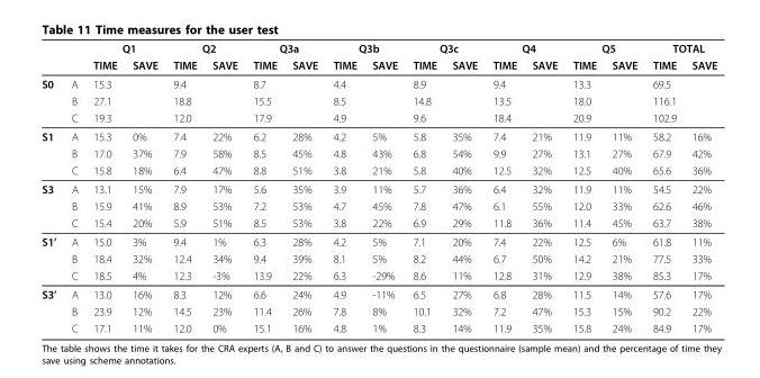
<table><thead><tr><td rowspan="2"></td><td rowspan="2"></td><td colspan="2">Q1</td><td colspan="2">Q2</td><td colspan="2">Q3a</td><td colspan="2">Q3b</td><td colspan="2">Q3c</td><td colspan="2">Q4</td><td colspan="2">Q5</td><td colspan="2">TOTAL</td></tr><tr><td>TIME</td><td>SAVE</td><td>TIME</td><td>SAVE</td><td>TIME</td><td>SAVE</td><td>TIME</td><td>SAVE</td><td>TIME</td><td>SAVE</td><td>TIME</td><td>SAVE</td><td>TIME</td><td>SAVE</td><td>TIME</td><td>SAVE</td></tr></thead><tbody><tr><td rowspan="3">S0</td><td>A</td><td>15.3</td><td></td><td>9.4</td><td></td><td>8.7</td><td></td><td>4.4</td><td></td><td>8.9</td><td></td><td>9.4</td><td></td><td>13.3</td><td></td><td>69.5</td><td></td></tr><tr><td>B</td><td>27.1</td><td></td><td>18.8</td><td></td><td>15.5</td><td></td><td>8.5</td><td></td><td>14.8</td><td></td><td>13.5</td><td></td><td>18.0</td><td></td><td>116.1</td><td></td></tr><tr><td>C</td><td>19.3</td><td></td><td>12.0</td><td></td><td>17.9</td><td></td><td>4.9</td><td></td><td>9.6</td><td></td><td>18.4</td><td></td><td>20.9</td><td></td><td>102.9</td><td></td></tr><tr><td rowspan="3">S1</td><td>A</td><td>15.3</td><td>0%</td><td>7.4</td><td>22%</td><td>6.2</td><td>28%</td><td>4.2</td><td>5%</td><td>5.8</td><td>35%</td><td>7.4</td><td>21%</td><td>11.9</td><td>11%</td><td>58.2</td><td>16%</td></tr><tr><td>B</td><td>17.0</td><td>37%</td><td>7.9</td><td>58%</td><td>8.5</td><td>45%</td><td>4.8</td><td>43%</td><td>6.8</td><td>54%</td><td>9.9</td><td>27%</td><td>13.1</td><td>27%</td><td>67.9</td><td>42%</td></tr><tr><td>C</td><td>15.8</td><td>18%</td><td>6.4</td><td>47%</td><td>8.8</td><td>51%</td><td>3.8</td><td>21%</td><td>5.8</td><td>40%</td><td>12.5</td><td>32%</td><td>12.5</td><td>40%</td><td>65.6</td><td>36%</td></tr><tr><td rowspan="3">S3</td><td>A</td><td>13.1</td><td>15%</td><td>7.9</td><td>17%</td><td>5.6</td><td>35%</td><td>3.9</td><td>11%</td><td>5.7</td><td>36%</td><td>6.4</td><td>32%</td><td>11.9</td><td>11%</td><td>54.5</td><td>22%</td></tr><tr><td>B</td><td>15.9</td><td>41%</td><td>8.9</td><td>53%</td><td>7.2</td><td>53%</td><td>4.7</td><td>45%</td><td>7.8</td><td>47%</td><td>6.1</td><td>55%</td><td>12.0</td><td>33%</td><td>62.6</td><td>46%</td></tr><tr><td>C</td><td>15.4</td><td>20%</td><td>5.9</td><td>51%</td><td>8.5</td><td>53%</td><td>3.8</td><td>22%</td><td>6.9</td><td>29%</td><td>11.8</td><td>36%</td><td>11.4</td><td>45%</td><td>63.7</td><td>38%</td></tr><tr><td rowspan="3">S1’</td><td>A</td><td>15.0</td><td>3%</td><td>9.4</td><td>1%</td><td>6.3</td><td>28%</td><td>4.2</td><td>5%</td><td>7.1</td><td>20%</td><td>7.4</td><td>22%</td><td>12.5</td><td>6%</td><td>61.8</td><td>11%</td></tr><tr><td>B</td><td>18.4</td><td>32%</td><td>12.4</td><td>34%</td><td>9.4</td><td>39%</td><td>8.1</td><td>5%</td><td>8.2</td><td>44%</td><td>6.7</td><td>50%</td><td>14.2</td><td>21%</td><td>77.5</td><td>33%</td></tr><tr><td>C</td><td>18.5</td><td>4%</td><td>12.3</td><td>-3%</td><td>13.9</td><td>22%</td><td>6.3</td><td>-29%</td><td>8.6</td><td>11%</td><td>12.8</td><td>31%</td><td>12.9</td><td>38%</td><td>85.3</td><td>17%</td></tr><tr><td rowspan="3">S3’</td><td>A</td><td>13.0</td><td>16%</td><td>8.3</td><td>12%</td><td>6.6</td><td>24%</td><td>4.9</td><td>-11%</td><td>6.5</td><td>27%</td><td>6.8</td><td>28%</td><td>11.5</td><td>14%</td><td>57.6</td><td>17%</td></tr><tr><td>B</td><td>23.9</td><td>12%</td><td>14.5</td><td>23%</td><td>11.4</td><td>26%</td><td>7.8</td><td>8%</td><td>10.1</td><td>32%</td><td>7.2</td><td>47%</td><td>15.3</td><td>15%</td><td>90.2</td><td>22%</td></tr><tr><td>C</td><td>17.1</td><td>11%</td><td>12.0</td><td>0%</td><td>15.1</td><td>16%</td><td>4.8</td><td>1%</td><td>8.3</td><td>14%</td><td>11.9</td><td>35%</td><td>15.8</td><td>24%</td><td>84.9</td><td>17%</td></tr></tbody></table>